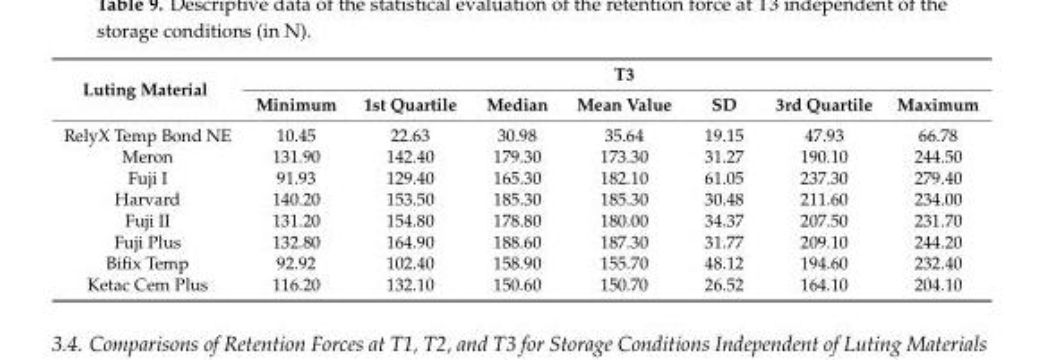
<table><thead><tr><td rowspan="2">Luting Material</td><td rowspan="2">Minimum</td><td rowspan="2">1st Quartile</td><td rowspan="2">Median</td><td rowspan="2">T3 Mean Value</td><td rowspan="2">SD</td><td rowspan="2">3rd Quartile</td><td rowspan="2">Maximum</td></tr><tr></tr></thead><tbody><tr><td>RelyX Temp Bond NE</td><td>10.45</td><td>22.63</td><td>30.98</td><td>35.64</td><td>19.15</td><td>47.93</td><td>66.78</td></tr><tr><td>Meron</td><td>131.90</td><td>142.40</td><td>179.30</td><td>173.30</td><td>31.27</td><td>190.10</td><td>244.50</td></tr><tr><td>Fuji I</td><td>91.93</td><td>129.40</td><td>165.30</td><td>182.10</td><td>61.05</td><td>237.30</td><td>279.40</td></tr><tr><td>Harvard</td><td>140.20</td><td>153.50</td><td>185.30</td><td>185.30</td><td>30.48</td><td>211.60</td><td>234.00</td></tr><tr><td>Fuji II</td><td>131.20</td><td>154.80</td><td>178.80</td><td>180.00</td><td>34.37</td><td>207.50</td><td>231.70</td></tr><tr><td>Fuji Plus</td><td>132.80</td><td>164.90</td><td>188.60</td><td>187.30</td><td>31.77</td><td>209.10</td><td>244.20</td></tr><tr><td>Bifix Temp</td><td>92.92</td><td>102.40</td><td>158.90</td><td>155.70</td><td>48.12</td><td>194.60</td><td>232.40</td></tr><tr><td>Ketac Cem Plus</td><td>116.20</td><td>132.10</td><td>150.60</td><td>150.70</td><td>26.52</td><td>164.10</td><td>204.10</td></tr></tbody></table>